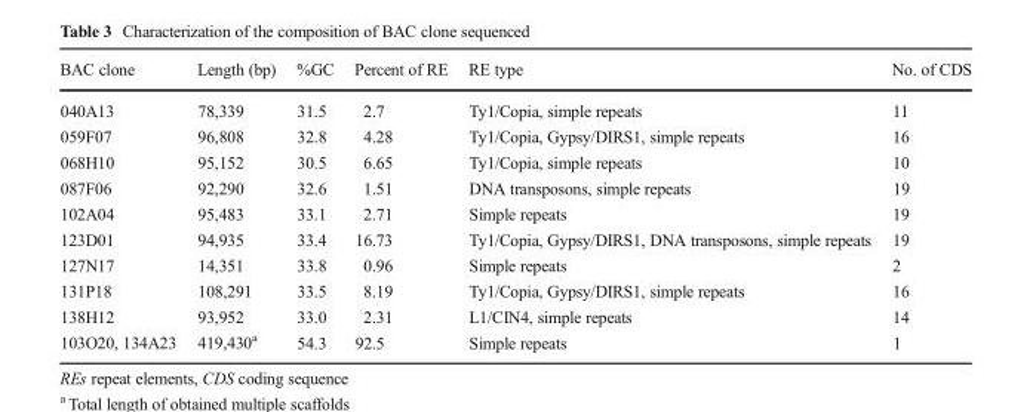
<table><thead><tr><td>BAC clone</td><td>Length (bp)</td><td>%GC</td><td>Percent of RE</td><td>RE type</td><td>No. of CDS</td></tr></thead><tbody><tr><td>040A13</td><td>78,339</td><td>31.5</td><td>2.7</td><td>Ty1/Copia, simple repeats</td><td>11</td></tr><tr><td>059F07</td><td>96,808</td><td>32.8</td><td>4.28</td><td>Ty1/Copia, Gypsy/DIRS1, simple repeats</td><td>16</td></tr><tr><td>068H10</td><td>95,152</td><td>30.5</td><td>6.65</td><td>Ty1/Copia, simple repeats</td><td>10</td></tr><tr><td>087F06</td><td>92,290</td><td>32.6</td><td>1.51</td><td>DNA transposons, simple repeats</td><td>19</td></tr><tr><td>102A04</td><td>95,483</td><td>33.1</td><td>2.71</td><td>Simple repeats</td><td>19</td></tr><tr><td>123D01</td><td>94,935</td><td>33.4</td><td>16.73</td><td>Ty1/Copia, Gypsy/DIRS1, DNA transposons, simple repeats</td><td>19</td></tr><tr><td>127N17</td><td>14,351</td><td>33.8</td><td>0.96</td><td>Simple repeats</td><td>2</td></tr><tr><td>131P18</td><td>108,291</td><td>33.5</td><td>8.19</td><td>Ty1/Copia, Gypsy/DIRS1, simple repeats</td><td>16</td></tr><tr><td>138H12</td><td>93,952</td><td>33.0</td><td>2.31</td><td>L1/CIN4, simple repeats</td><td>14</td></tr><tr><td>103O20, 134A23</td><td>419,430<sup>a</sup></td><td>54.3</td><td>92.5</td><td>Simple repeats</td><td>1</td></tr></tbody></table>